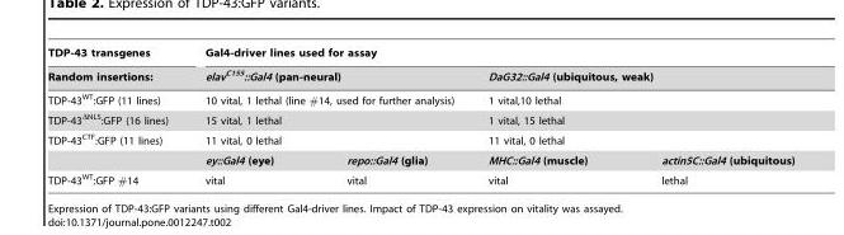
<table><thead><tr><td rowspan="2">TDP-43 transgenes Random insertions:</td><td colspan="4">Gal4-driver lines used for assay</td></tr><tr><td colspan="2">elav<sup>C155</sup>::Gal4 (pan-neural)</td><td colspan="2">DaG32::Gal4 (ubiquitous, weak)</td></tr></thead><tbody><tr><td>TDP-43<sup>WT</sup>:GFP (11 lines)</td><td colspan="2">10 vital, 1 lethal (line #14, used for further analysis)</td><td colspan="2">1 vital,10 lethal</td></tr><tr><td>TDP-43<sup>ΔNLS</sup>:GFP (16 lines)</td><td colspan="2">15 vital, 1 lethal</td><td colspan="2">1 vital, 15 lethal</td></tr><tr><td rowspan="2">TDP-43<sup>CTF</sup>:GFP (11 lines)</td><td colspan="2">11 vital, 0 lethal</td><td colspan="2">11 vital, 0 lethal</td></tr><tr><td>ey::Gal4 (eye)</td><td>repo::Gal4 (glia)</td><td>MHC::Gal4 (muscle)</td><td>actin5C::Gal4 (ubiquitous)</td></tr><tr><td>TDP-43<sup>WT</sup>:GFP #14</td><td>vital</td><td>vital</td><td>vital</td><td>lethal</td></tr></tbody></table>